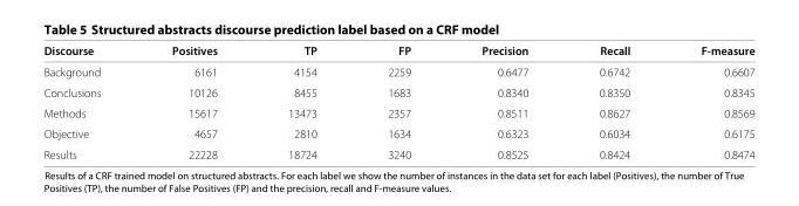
<table><thead><tr><td>Discourse</td><td>Positives</td><td>TP</td><td>FP</td><td>Precision</td><td>Recall</td><td>F-measure</td></tr></thead><tbody><tr><td>Background</td><td>6161</td><td>4154</td><td>2259</td><td>0.6477</td><td>0.6742</td><td>0.6607</td></tr><tr><td>Conclusions</td><td>10126</td><td>8455</td><td>1683</td><td>0.8340</td><td>0.8350</td><td>0.8345</td></tr><tr><td>Methods</td><td>15617</td><td>13473</td><td>2357</td><td>0.8511</td><td>0.8627</td><td>0.8569</td></tr><tr><td>Objective</td><td>4657</td><td>2810</td><td>1634</td><td>0.6323</td><td>0.6034</td><td>0.6175</td></tr><tr><td>Results</td><td>22228</td><td>18724</td><td>3240</td><td>0.8525</td><td>0.8424</td><td>0.8474</td></tr></tbody></table>